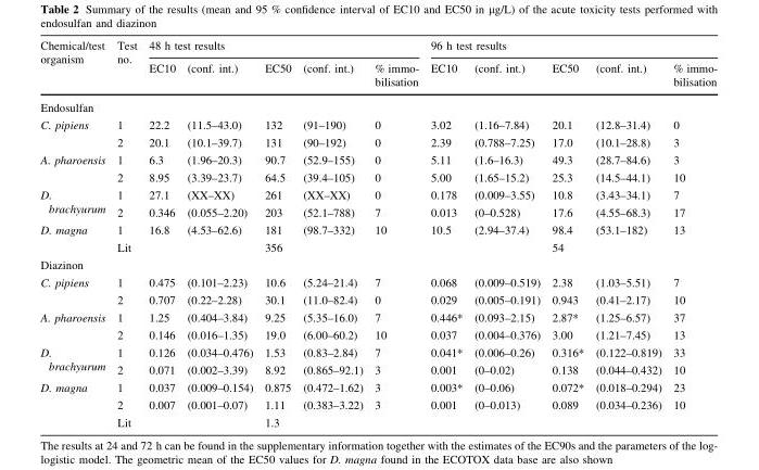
<table><thead><tr><td rowspan="2">Chemical/test organism</td><td rowspan="2">Test no.</td><td colspan="5">48 h test results</td><td colspan="5">96 h test results</td></tr><tr><td>EC10</td><td>(conf. int.)</td><td>EC50</td><td>(conf. int.)</td><td>% immo- bilisation</td><td>EC10</td><td>(conf. int.)</td><td>EC50</td><td>(conf. int.)</td><td>% immo- bilisation</td></tr></thead><tbody><tr><td colspan="12">Endosulfan</td></tr><tr><td rowspan="2">C. pipiens</td><td>1</td><td>22.2</td><td>(11.5–43.0)</td><td>132</td><td>(91–190)</td><td>0</td><td>3.02</td><td>(1.16–7.84)</td><td>20.1</td><td>(12.8–31.4)</td><td>0</td></tr><tr><td>2</td><td>20.1</td><td>(10.1–39.7)</td><td>131</td><td>(90–192)</td><td>0</td><td>2.39</td><td>(0.788–7.25)</td><td>17.0</td><td>(10.1–28.8)</td><td>3</td></tr><tr><td rowspan="2">A. pharoensis</td><td>1</td><td>6.3</td><td>(1.96–20.3)</td><td>90.7</td><td>(52.9–155)</td><td>0</td><td>5.11</td><td>(1.6–16.3)</td><td>49.3</td><td>(28.7–84.6)</td><td>3</td></tr><tr><td>2</td><td>8.95</td><td>(3.39–23.7)</td><td>64.5</td><td>(39.4–105)</td><td>0</td><td>5.00</td><td>(1.65–15.2)</td><td>25.3</td><td>(14.5–44.1)</td><td>10</td></tr><tr><td rowspan="2">D. brachyurum</td><td>1</td><td>27.1</td><td>(XX–XX)</td><td>261</td><td>(XX–XX)</td><td>0</td><td>0.178</td><td>(0.009–3.55)</td><td>10.8</td><td>(3.43–34.1)</td><td>7</td></tr><tr><td>2</td><td>0.346</td><td>(0.055–2.20)</td><td>203</td><td>(52.1–788)</td><td>7</td><td>0.013</td><td>(0–0.528)</td><td>17.6</td><td>(4.55–68.3)</td><td>17</td></tr><tr><td rowspan="2">D. magna</td><td>1</td><td>16.8</td><td>(4.53–62.6)</td><td>181</td><td>(98.7–332)</td><td>10</td><td>10.5</td><td>(2.94–37.4)</td><td>98.4</td><td>(53.1–182)</td><td>13</td></tr><tr><td>Lit</td><td></td><td></td><td>356</td><td></td><td></td><td></td><td></td><td>54</td><td></td><td></td></tr><tr><td colspan="12">Diazinon</td></tr><tr><td rowspan="2">C. pipiens</td><td>1</td><td>0.475</td><td>(0.101–2.23)</td><td>10.6</td><td>(5.24–21.4)</td><td>7</td><td>0.068</td><td>(0.009–0.519)</td><td>2.38</td><td>(1.03–5.51)</td><td>7</td></tr><tr><td>2</td><td>0.707</td><td>(0.22–2.28)</td><td>30.1</td><td>(11.0–82.4)</td><td>0</td><td>0.029</td><td>(0.005–0.191)</td><td>0.943</td><td>(0.41–2.17)</td><td>10</td></tr><tr><td rowspan="2">A. pharoensis</td><td>1</td><td>1.25</td><td>(0.404–3.84)</td><td>9.25</td><td>(5.35–16.0)</td><td>7</td><td>0.446*</td><td>(0.093–2.15)</td><td>2.87*</td><td>(1.25–6.57)</td><td>37</td></tr><tr><td>2</td><td>0.146</td><td>(0.016–1.35)</td><td>19.0</td><td>(6.00–60.2)</td><td>10</td><td>0.037</td><td>(0.004–0.376)</td><td>3.00</td><td>(1.21–7.45)</td><td>13</td></tr><tr><td rowspan="2">D. brachyurum</td><td>1</td><td>0.126</td><td>(0.034–0.476)</td><td>1.53</td><td>(0.83–2.84)</td><td>7</td><td>0.041*</td><td>(0.006–0.26)</td><td>0.316*</td><td>(0.122–0.819)</td><td>33</td></tr><tr><td>2</td><td>0.071</td><td>(0.002–3.39)</td><td>8.92</td><td>(0.865–92.1)</td><td>3</td><td>0.001</td><td>(0–0.02)</td><td>0.138</td><td>(0.044–0.432)</td><td>10</td></tr><tr><td rowspan="3">D. magna</td><td>1</td><td>0.037</td><td>(0.009–0.154)</td><td>0.875</td><td>(0.472–1.62)</td><td>3</td><td>0.003*</td><td>(0–0.06)</td><td>0.072*</td><td>(0.018–0.294)</td><td>23</td></tr><tr><td>2</td><td>0.007</td><td>(0.001–0.07)</td><td>1.11</td><td>(0.383–3.22)</td><td>3</td><td>0.001</td><td>(0–0.013)</td><td>0.089</td><td>(0.034–0.236)</td><td>10</td></tr><tr><td>Lit</td><td></td><td></td><td>1.3</td><td></td><td></td><td></td><td></td><td></td><td></td><td></td></tr></tbody></table>